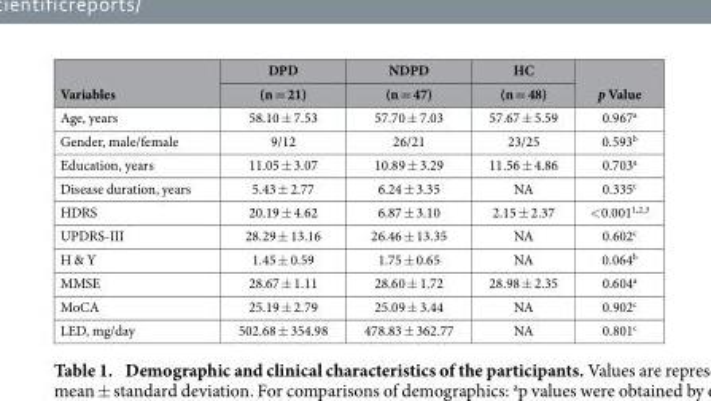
<table><thead><tr><td rowspan="2">Variables</td><td rowspan="2">DPD (n = 21)</td><td rowspan="2">NDPD (n = 47)</td><td rowspan="2">HC (n = 48)</td><td rowspan="2">p Value</td></tr><tr></tr></thead><tbody><tr><td>Age, years</td><td>58.10 ± 7.53</td><td>57.70 ± 7.03</td><td>57.67 ± 5.59</td><td>0.967<sup>a</sup></td></tr><tr><td>Gender, male/female</td><td>9/12</td><td>26/21</td><td>23/25</td><td>0.593<sup>b</sup></td></tr><tr><td>Education, years</td><td>11.05 ± 3.07</td><td>10.89 ± 3.29</td><td>11.56 ± 4.86</td><td>0.703<sup>a</sup></td></tr><tr><td>Disease duration, years</td><td>5.43 ± 2.77</td><td>6.24 ± 3.35</td><td>NA</td><td>0.335<sup>c</sup></td></tr><tr><td>HDRS</td><td>20.19 ± 4.62</td><td>6.87 ± 3.10</td><td>2.15 ± 2.37</td><td>&lt; 0.001<sup>1,2,3</sup></td></tr><tr><td>UPDRS-III</td><td>28.29 ± 13.16</td><td>26.46 ± 13.35</td><td>NA</td><td>0.602<sup>c</sup></td></tr><tr><td>H &amp; Y</td><td>1.45 ± 0.59</td><td>1.75 ± 0.65</td><td>NA</td><td>0.064<sup>b</sup></td></tr><tr><td>MMSE</td><td>28.67 ± 1.11</td><td>28.60 ± 1.72</td><td>28.98 ± 2.35</td><td>0.604<sup>a</sup></td></tr><tr><td>MoCA</td><td>25.19 ± 2.79</td><td>25.09 ± 3.44</td><td>NA</td><td>0.902<sup>c</sup></td></tr><tr><td>LED, mg/day</td><td>502.68 ± 354.98</td><td>478.83 ± 362.77</td><td>NA</td><td>0.801<sup>c</sup></td></tr></tbody></table>